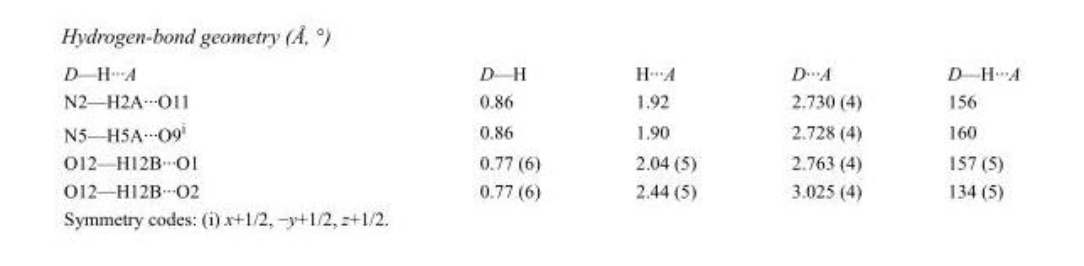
<table><tbody><tr><td>D—H···A</td><td>D—H</td><td>H···A</td><td>D···A</td><td>D—H···A</td></tr><tr><td>N2—H2A···O11</td><td>0.86</td><td>1.92</td><td>2.730 (4)</td><td>156</td></tr><tr><td>N5—H5A···O9<sup>i</sup></td><td>0.86</td><td>1.90</td><td>2.728 (4)</td><td>160</td></tr><tr><td>O12—H12B···O1</td><td>0.77 (6)</td><td>2.04 (5)</td><td>2.763 (4)</td><td>157 (5)</td></tr><tr><td>O12—H12B···O2</td><td>0.77 (6)</td><td>2.44 (5)</td><td>3.025 (4)</td><td>134 (5)</td></tr></tbody></table>